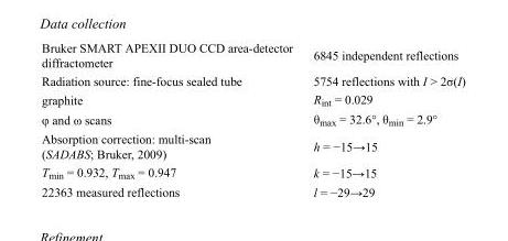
<table><tbody><tr><td>Bruker SMART APEXII DUO CCD area-detector diffractometer</td><td>6845 independent reflections</td></tr><tr><td>Radiation source: fine-focus sealed tube</td><td>5754 reflections with I &gt; 2σ(I)</td></tr><tr><td>graphite</td><td>R<sub>int</sub> = 0.029</td></tr><tr><td>φ and ω scans</td><td>θ<sub>max</sub> = 32.6°, θ<sub>min</sub> = 2.9°</td></tr><tr><td>Absorption correction: multi-scan (SADABS; Bruker, 2009)</td><td>h = −15→15</td></tr><tr><td>T<sub>min</sub> = 0.932, T<sub>max</sub> = 0.947</td><td>k = −15→15</td></tr><tr><td>22363 measured reflections</td><td>l = −29→29</td></tr></tbody></table>